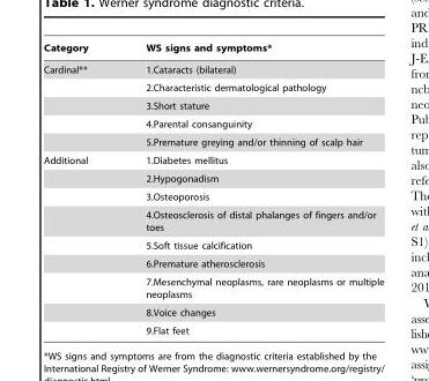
<table><thead><tr><td>Category</td><td>WS signs and symptoms*</td></tr></thead><tbody><tr><td rowspan="5">Cardinal**</td><td>1.Cataracts (bilateral)</td></tr><tr><td>2.Characteristic dermatological pathology</td></tr><tr><td>3.Short stature</td></tr><tr><td>4.Parental consanguinity</td></tr><tr><td>5.Premature greying and/or thinning of scalp hair</td></tr><tr><td rowspan="9">Additional</td><td>1.Diabetes mellitus</td></tr><tr><td>2.Hypogonadism</td></tr><tr><td>3.Osteoporosis</td></tr><tr><td>4.Osteosclerosis of distal phalanges of fingers and/or toes</td></tr><tr><td>5.Soft tissue calcification</td></tr><tr><td>6.Premature atherosclerosis</td></tr><tr><td>7.Mesenchymal neoplasms, rare neoplasms or multiple neoplasms</td></tr><tr><td>8.Voice changes</td></tr><tr><td>9.Flat feet</td></tr></tbody></table>